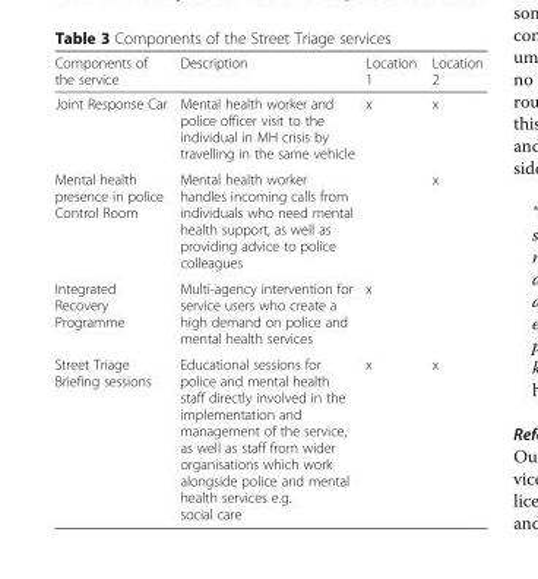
<table><thead><tr><td>Components of the service</td><td>Description</td><td>Location 1</td><td>Location 2</td></tr></thead><tbody><tr><td>Joint Response Car</td><td>Mental health worker and police officer visit to the individual in MH crisis by travelling in the same vehicle</td><td>x</td><td>x</td></tr><tr><td>Mental health presence in police Control Room</td><td>Mental health worker handles incoming calls from individuals who need mental health support, as well as providing advice to police colleagues</td><td></td><td>x</td></tr><tr><td>Integrated Recovery Programme</td><td>Multi-agency intervention for service users who create a high demand on police and mental health services</td><td>x</td><td></td></tr><tr><td>Street Triage Briefing sessions</td><td>Educational sessions for police and mental health staff directly involved in the implementation and management of the service, as well as staff from wider organisations which work alongside police and mental health services e.g. social care</td><td>x</td><td>x</td></tr></tbody></table>